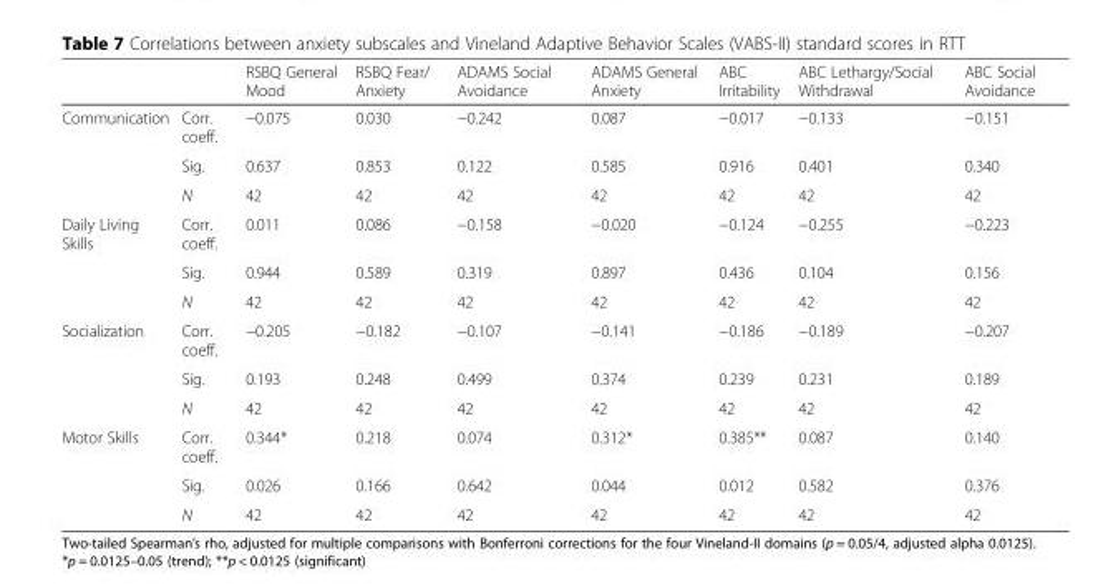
<table><thead><tr><td></td><td></td><td>RSBQ General Mood</td><td>RSBQ Fear/ Anxiety</td><td>ADAMS Social Avoidance</td><td>ADAMS General Anxiety</td><td>ABC Irritability</td><td>ABC Lethargy/Social Withdrawal</td><td>ABC Social Avoidance</td></tr></thead><tbody><tr><td rowspan="3">Communication</td><td>Corr. coeff.</td><td>−0.075</td><td>0.030</td><td>−0.242</td><td>0.087</td><td>−0.017</td><td>−0.133</td><td>−0.151</td></tr><tr><td>Sig.</td><td>0.637</td><td>0.853</td><td>0.122</td><td>0.585</td><td>0.916</td><td>0.401</td><td>0.340</td></tr><tr><td>N</td><td>42</td><td>42</td><td>42</td><td>42</td><td>42</td><td>42</td><td>42</td></tr><tr><td rowspan="3">Daily Living Skills</td><td>Corr. coeff.</td><td>0.011</td><td>0.086</td><td>−0.158</td><td>−0.020</td><td>−0.124</td><td>−0.255</td><td>−0.223</td></tr><tr><td>Sig.</td><td>0.944</td><td>0.589</td><td>0.319</td><td>0.897</td><td>0.436</td><td>0.104</td><td>0.156</td></tr><tr><td>N</td><td>42</td><td>42</td><td>42</td><td>42</td><td>42</td><td>42</td><td>42</td></tr><tr><td rowspan="3">Socialization</td><td>Corr. coeff.</td><td>−0.205</td><td>−0.182</td><td>−0.107</td><td>−0.141</td><td>−0.186</td><td>−0.189</td><td>−0.207</td></tr><tr><td>Sig.</td><td>0.193</td><td>0.248</td><td>0.499</td><td>0.374</td><td>0.239</td><td>0.231</td><td>0.189</td></tr><tr><td>N</td><td>42</td><td>42</td><td>42</td><td>42</td><td>42</td><td>42</td><td>42</td></tr><tr><td rowspan="3">Motor Skills</td><td>Corr. coeff.</td><td>0.344*</td><td>0.218</td><td>0.074</td><td>0.312*</td><td>0.385**</td><td>0.087</td><td>0.140</td></tr><tr><td>Sig.</td><td>0.026</td><td>0.166</td><td>0.642</td><td>0.044</td><td>0.012</td><td>0.582</td><td>0.376</td></tr><tr><td>N</td><td>42</td><td>42</td><td>42</td><td>42</td><td>42</td><td>42</td><td>42</td></tr></tbody></table>